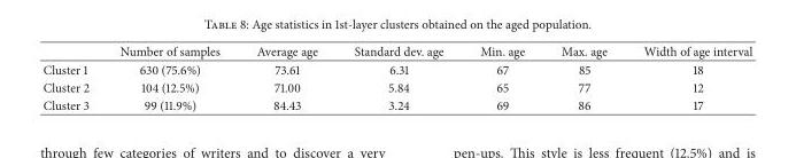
<table><thead><tr><td></td><td>Number of samples</td><td>Average age</td><td>Standard dev. age</td><td>Min. age</td><td>Max. age</td><td>Width of age interval</td></tr></thead><tbody><tr><td>Cluster 1</td><td>630 (75.6%)</td><td>73.61</td><td>6.31</td><td>67</td><td>85</td><td>18</td></tr><tr><td>Cluster 2</td><td>104 (12.5%)</td><td>71.00</td><td>5.84</td><td>65</td><td>77</td><td>12</td></tr><tr><td>Cluster 3</td><td>99 (11.9%)</td><td>84.43</td><td>3.24</td><td>69</td><td>86</td><td>17</td></tr></tbody></table>